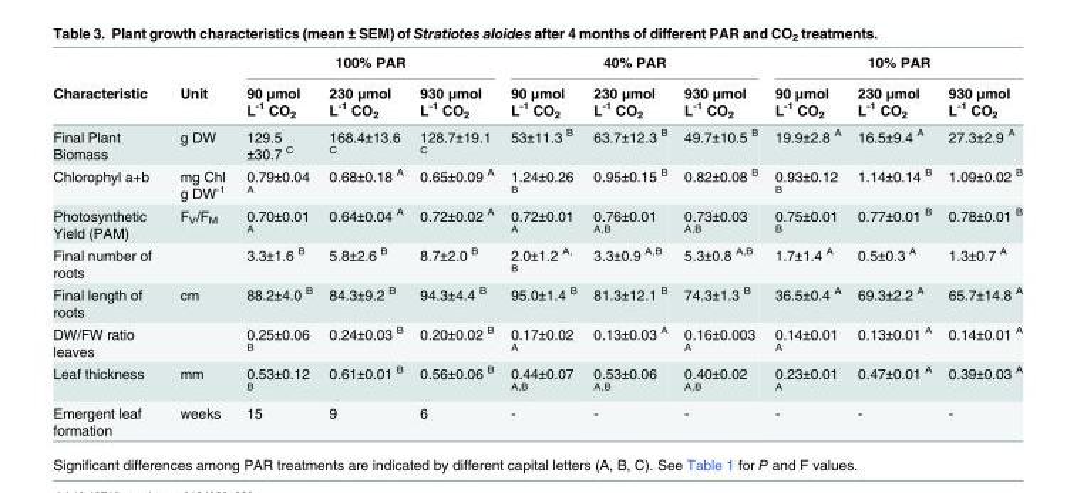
<table><thead><tr><td rowspan="2">Characteristic</td><td rowspan="2">Unit</td><td colspan="3">100% PAR</td><td colspan="3">40% PAR</td><td colspan="3">10% PAR</td></tr><tr><td>90 μmol L<sup>-1</sup> CO<sub>2</sub></td><td>230 μmol L<sup>-1</sup> CO<sub>2</sub></td><td>930 μmol L<sup>-1</sup> CO<sub>2</sub></td><td>90 μmol L<sup>-1</sup> CO<sub>2</sub></td><td>230 μmol L<sup>-1</sup> CO<sub>2</sub></td><td>930 μmol L<sup>-1</sup> CO<sub>2</sub></td><td>90 μmol L<sup>-1</sup> CO<sub>2</sub></td><td>230 μmol L<sup>-1</sup> CO<sub>2</sub></td><td>930 μmol L<sup>-1</sup> CO<sub>2</sub></td></tr></thead><tbody><tr><td>Final Plant Biomass</td><td>g DW</td><td>129.5 ±30.7 <sup>C</sup></td><td>168.4±13.6 <sup>C</sup></td><td>128.7±19.1 <sup>C</sup></td><td>53±11.3 <sup>B</sup></td><td>63.7±12.3 <sup>B</sup></td><td>49.7±10.5 <sup>B</sup></td><td>19.9±2.8 <sup>A</sup></td><td>16.5±9.4 <sup>A</sup></td><td>27.3±2.9 <sup>A</sup></td></tr><tr><td>Chlorophyl a+b</td><td>mg Chl g DW<sup>-1</sup></td><td>0.79±0.04 <sup>A</sup></td><td>0.68±0.18 <sup>A</sup></td><td>0.65±0.09 <sup>A</sup></td><td>1.24±0.26 <sup>B</sup></td><td>0.95±0.15 <sup>B</sup></td><td>0.82±0.08 <sup>B</sup></td><td>0.93±0.12 <sup>B</sup></td><td>1.14±0.14 <sup>B</sup></td><td>1.09±0.02 <sup>B</sup></td></tr><tr><td>Photosynthetic Yield (PAM)</td><td>F<sub>V</sub>/F<sub>M</sub></td><td>0.70±0.01 <sup>A</sup></td><td>0.64±0.04 <sup>A</sup></td><td>0.72±0.02 <sup>A</sup></td><td>0.72±0.01 <sup>A</sup></td><td>0.76±0.01 <sup>A,B</sup></td><td>0.73±0.03 <sup>A,B</sup></td><td>0.75±0.01 <sup>B</sup></td><td>0.77±0.01 <sup>B</sup></td><td>0.78±0.01 <sup>B</sup></td></tr><tr><td>Final number of roots</td><td></td><td>3.3±1.6 <sup>B</sup></td><td>5.8±2.6 <sup>B</sup></td><td>8.7±2.0 <sup>B</sup></td><td>2.0±1.2 <sup>A, B</sup></td><td>3.3±0.9 <sup>A,B</sup></td><td>5.3±0.8 <sup>A,B</sup></td><td>1.7±1.4 <sup>A</sup></td><td>0.5±0.3 <sup>A</sup></td><td>1.3±0.7 <sup>A</sup></td></tr><tr><td>Final length of roots</td><td>cm</td><td>88.2±4.0 <sup>B</sup></td><td>84.3±9.2 <sup>B</sup></td><td>94.3±4.4 <sup>B</sup></td><td>95.0±1.4 <sup>B</sup></td><td>81.3±12.1 <sup>B</sup></td><td>74.3±1.3 <sup>B</sup></td><td>36.5±0.4 <sup>A</sup></td><td>69.3±2.2 <sup>A</sup></td><td>65.7±14.8 <sup>A</sup></td></tr><tr><td>DW/FW ratio leaves</td><td></td><td>0.25±0.06 <sup>B</sup></td><td>0.24±0.03 <sup>B</sup></td><td>0.20±0.02 <sup>B</sup></td><td>0.17±0.02 <sup>A</sup></td><td>0.13±0.03 <sup>A</sup></td><td>0.16±0.003 <sup>A</sup></td><td>0.14±0.01 <sup>A</sup></td><td>0.13±0.01 <sup>A</sup></td><td>0.14±0.01 <sup>A</sup></td></tr><tr><td>Leaf thickness</td><td>mm</td><td>0.53±0.12 <sup>B</sup></td><td>0.61±0.01 <sup>B</sup></td><td>0.56±0.06 <sup>B</sup></td><td>0.44±0.07 <sup>A,B</sup></td><td>0.53±0.06 <sup>A,B</sup></td><td>0.40±0.02 <sup>A,B</sup></td><td>0.23±0.01 <sup>A</sup></td><td>0.47±0.01 <sup>A</sup></td><td>0.39±0.03 <sup>A</sup></td></tr><tr><td>Emergent leaf formation</td><td>weeks</td><td>15</td><td>9</td><td>6</td><td>-</td><td>-</td><td>-</td><td>-</td><td>-</td><td>-</td></tr></tbody></table>